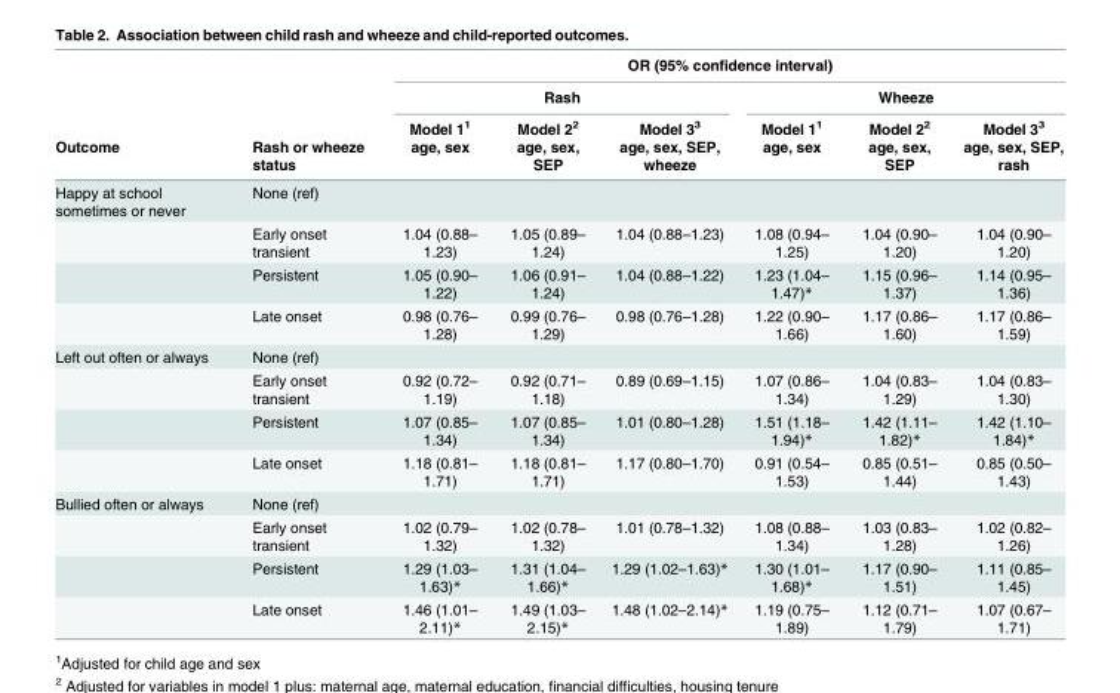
<table><thead><tr><td rowspan="4">Outcome</td><td rowspan="4">Rash or wheeze status</td><td colspan="6">OR (95% confidence interval)</td></tr><tr><td colspan="3">Rash</td><td colspan="3">Wheeze</td></tr><tr><td rowspan="2">Model 1<sup>1</sup> age, sex</td><td rowspan="2">Model 2<sup>2</sup> age, sex, SEP</td><td rowspan="2">Model 3<sup>3</sup> age, sex, SEP, wheeze</td><td rowspan="2">Model 1<sup>1</sup> age, sex</td><td rowspan="2">Model 2<sup>2</sup> age, sex, SEP</td><td rowspan="2">Model 3<sup>3</sup> age, sex, SEP, rash</td></tr><tr></tr></thead><tbody><tr><td rowspan="4">Happy at school sometimes or never</td><td>None (ref)</td><td></td><td></td><td></td><td></td><td></td><td></td></tr><tr><td>Early onset transient</td><td>1.04 (0.88– 1.23)</td><td>1.05 (0.89– 1.24)</td><td>1.04 (0.88–1.23)</td><td>1.08 (0.94– 1.25)</td><td>1.04 (0.90– 1.20)</td><td>1.04 (0.90– 1.20)</td></tr><tr><td>Persistent</td><td>1.05 (0.90– 1.22)</td><td>1.06 (0.91– 1.24)</td><td>1.04 (0.88–1.22)</td><td>1.23 (1.04– 1.47)*</td><td>1.15 (0.96– 1.37)</td><td>1.14 (0.95– 1.36)</td></tr><tr><td>Late onset</td><td>0.98 (0.76– 1.28)</td><td>0.99 (0.76– 1.29)</td><td>0.98 (0.76–1.28)</td><td>1.22 (0.90– 1.66)</td><td>1.17 (0.86– 1.60)</td><td>1.17 (0.86– 1.59)</td></tr><tr><td rowspan="4">Left out often or always</td><td>None (ref)</td><td></td><td></td><td></td><td></td><td></td><td></td></tr><tr><td>Early onset transient</td><td>0.92 (0.72– 1.19)</td><td>0.92 (0.71– 1.18)</td><td>0.89 (0.69–1.15)</td><td>1.07 (0.86– 1.34)</td><td>1.04 (0.83– 1.29)</td><td>1.04 (0.83– 1.30)</td></tr><tr><td>Persistent</td><td>1.07 (0.85– 1.34)</td><td>1.07 (0.85– 1.34)</td><td>1.01 (0.80–1.28)</td><td>1.51 (1.18– 1.94)*</td><td>1.42 (1.11– 1.82)*</td><td>1.42 (1.10– 1.84)*</td></tr><tr><td>Late onset</td><td>1.18 (0.81– 1.71)</td><td>1.18 (0.81– 1.71)</td><td>1.17 (0.80–1.70)</td><td>0.91 (0.54– 1.53)</td><td>0.85 (0.51– 1.44)</td><td>0.85 (0.50– 1.43)</td></tr><tr><td rowspan="4">Bullied often or always</td><td>None (ref)</td><td></td><td></td><td></td><td></td><td></td><td></td></tr><tr><td>Early onset transient</td><td>1.02 (0.79– 1.32)</td><td>1.02 (0.78– 1.32)</td><td>1.01 (0.78–1.32)</td><td>1.08 (0.88– 1.34)</td><td>1.03 (0.83– 1.28)</td><td>1.02 (0.82– 1.26)</td></tr><tr><td>Persistent</td><td>1.29 (1.03– 1.63)*</td><td>1.31 (1.04– 1.66)*</td><td>1.29 (1.02–1.63)*</td><td>1.30 (1.01– 1.68)*</td><td>1.17 (0.90– 1.51)</td><td>1.11 (0.85– 1.45)</td></tr><tr><td>Late onset</td><td>1.46 (1.01– 2.11)*</td><td>1.49 (1.03– 2.15)*</td><td>1.48 (1.02–2.14)*</td><td>1.19 (0.75– 1.89)</td><td>1.12 (0.71– 1.79)</td><td>1.07 (0.67– 1.71)</td></tr></tbody></table>